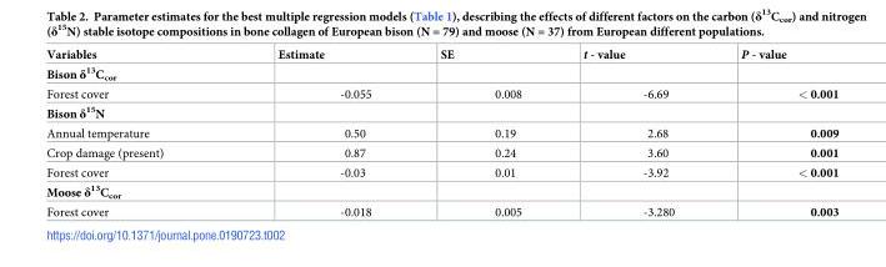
<table><thead><tr><td>Variables</td><td>Estimate</td><td>SE</td><td>t - value</td><td>P - value</td></tr></thead><tbody><tr><td colspan="5">Bison δ<sup>13</sup>C<sub>cor</sub></td></tr><tr><td>Forest cover</td><td>-0.055</td><td>0.008</td><td>-6.69</td><td>&lt; 0.001</td></tr><tr><td colspan="5">Bison δ<sup>15</sup>N</td></tr><tr><td>Annual temperature</td><td>0.50</td><td>0.19</td><td>2.68</td><td>0.009</td></tr><tr><td>Crop damage (present)</td><td>0.87</td><td>0.24</td><td>3.60</td><td>0.001</td></tr><tr><td>Forest cover</td><td>-0.03</td><td>0.01</td><td>-3.92</td><td>&lt; 0.001</td></tr><tr><td colspan="5">Moose δ<sup>13</sup>C<sub>cor</sub></td></tr><tr><td>Forest cover</td><td>-0.018</td><td>0.005</td><td>-3.280</td><td>0.003</td></tr></tbody></table>